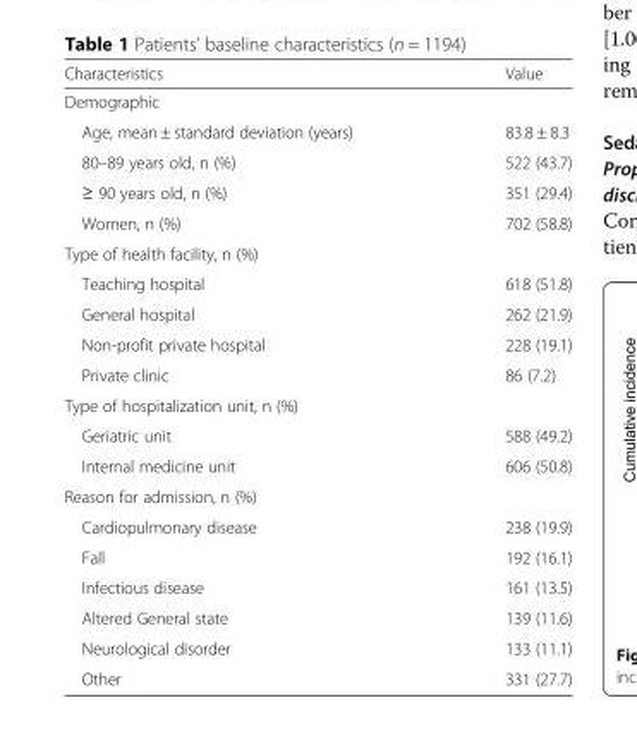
<table><thead><tr><td>Characteristics</td><td>Value</td></tr></thead><tbody><tr><td colspan="2">Demographic</td></tr><tr><td>Age, mean ± standard deviation (years)</td><td>83.8 ± 8.3</td></tr><tr><td>80–89 years old, n (%)</td><td>522 (43.7)</td></tr><tr><td>≥ 90 years old, n (%)</td><td>351 (29.4)</td></tr><tr><td>Women, n (%)</td><td>702 (58.8)</td></tr><tr><td colspan="2">Type of health facility, n (%)</td></tr><tr><td>Teaching hospital</td><td>618 (51.8)</td></tr><tr><td>General hospital</td><td>262 (21.9)</td></tr><tr><td>Non-profit private hospital</td><td>228 (19.1)</td></tr><tr><td>Private clinic</td><td>86 (7.2)</td></tr><tr><td colspan="2">Type of hospitalization unit, n (%)</td></tr><tr><td>Geriatric unit</td><td>588 (49.2)</td></tr><tr><td>Internal medicine unit</td><td>606 (50.8)</td></tr><tr><td colspan="2">Reason for admission, n (%)</td></tr><tr><td>Cardiopulmonary disease</td><td>238 (19.9)</td></tr><tr><td>Fall</td><td>192 (16.1)</td></tr><tr><td>Infectious disease</td><td>161 (13.5)</td></tr><tr><td>Altered General state</td><td>139 (11.6)</td></tr><tr><td>Neurological disorder</td><td>133 (11.1)</td></tr><tr><td>Other</td><td>331 (27.7)</td></tr></tbody></table>